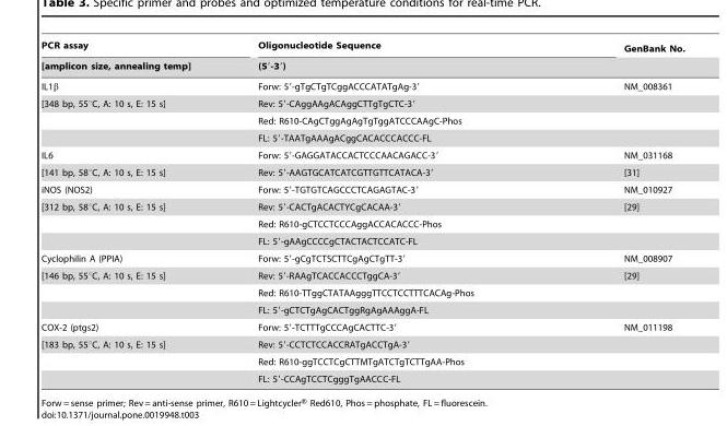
<table><thead><tr><td rowspan="2">PCR assay [amplicon size, annealing temp]</td><td rowspan="2">Oligonucleotide Sequence (5′-3′)</td><td rowspan="2">GenBank No.</td></tr><tr></tr></thead><tbody><tr><td>IL1β</td><td>Forw: 5′-gTgCTgTCggACCCATATgAg-3′</td><td>NM_008361</td></tr><tr><td rowspan="3">[348 bp, 55°C, A: 10 s, E: 15 s]</td><td>Rev: 5′-CAggAAgACAggCTTgTgCTC-3′</td><td></td></tr><tr><td>Red: R610-CAgCTggAgAgTgTggATCCCAAgC-Phos</td><td></td></tr><tr><td>FL: 5′-TAATgAAAgACggCACACCCACCC-FL</td><td></td></tr><tr><td>IL6</td><td>Forw: 5′-GAGGATACCACTCCCAACAGACC-3′</td><td>NM_031168</td></tr><tr><td>[141 bp, 58°C, A: 10 s, E: 15 s]</td><td>Rev: 5′-AAGTGCATCATCGTTGTTCATACA-3′</td><td>[31]</td></tr><tr><td>iNOS (NOS2)</td><td>Forw: 5′-TGTGTCAGCCCTCAGAGTAC-3′</td><td>NM_010927</td></tr><tr><td rowspan="3">[312 bp, 58°C, A: 10 s, E: 15 s]</td><td>Rev: 5′-CACTgACACTYCgCACAA-3′</td><td>[29]</td></tr><tr><td>Red: R610-gCTCCTCCCAggACCACACCC-Phos</td><td></td></tr><tr><td>FL: 5′-gAAgCCCCgCTACTACTCCATC-FL</td><td></td></tr><tr><td>Cyclophilin A (PPIA)</td><td>Forw: 5′-gCgTCTSCTTCgAgCTgTT-3′</td><td>NM_008907</td></tr><tr><td rowspan="3">[146 bp, 55°C, A: 10 s, E: 15 s]</td><td>Rev: 5′-RAAgTCACCACCCTggCA-3′</td><td>[29]</td></tr><tr><td>Red: R610-TTggCTATAAgggTTCCTCCTTTCACAg-Phos</td><td></td></tr><tr><td>FL: 5′-gCTCTgAgCACTggRgAgAAAggA-FL</td><td></td></tr><tr><td>COX-2 (ptgs2)</td><td>Forw: 5′-TCTTTgCCCAgCACTTC-3′</td><td>NM_011198</td></tr><tr><td rowspan="3">[183 bp, 55°C, A: 10 s, E: 15 s]</td><td>Rev: 5′-CCTCTCCACCRATgACCTgA-3′</td><td></td></tr><tr><td>Red: R610-ggTCCTCgCTTMTgATCTgTCTTgAA-Phos</td><td></td></tr><tr><td>FL: 5′-CCAgTCCTCgggTgAACCC-FL</td><td></td></tr></tbody></table>